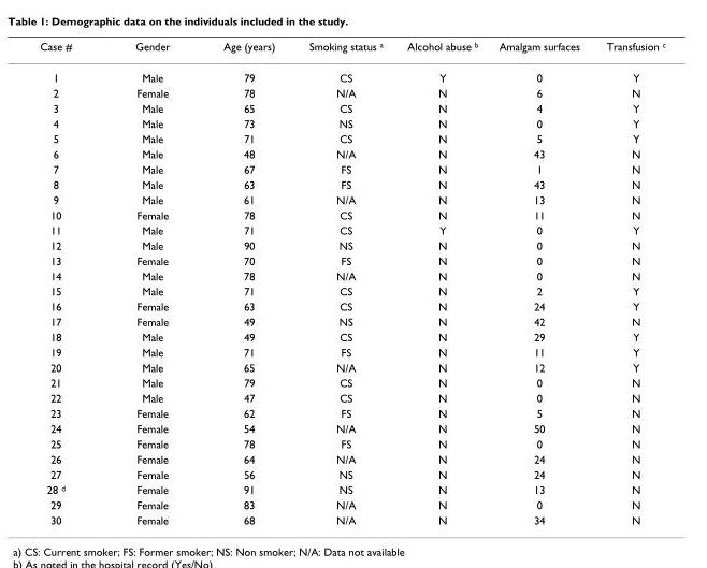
<table><thead><tr><td>Case #</td><td>Gender</td><td>Age (years)</td><td>Smoking status <sup>a</sup></td><td>Alcohol abuse <sup>b</sup></td><td>Amalgam surfaces</td><td>Transfusion <sup>c</sup></td></tr></thead><tbody><tr><td>1</td><td>Male</td><td>79</td><td>CS</td><td>Y</td><td>0</td><td>Y</td></tr><tr><td>2</td><td>Female</td><td>78</td><td>N/A</td><td>N</td><td>6</td><td>N</td></tr><tr><td>3</td><td>Male</td><td>65</td><td>CS</td><td>N</td><td>4</td><td>Y</td></tr><tr><td>4</td><td>Male</td><td>73</td><td>NS</td><td>N</td><td>0</td><td>Y</td></tr><tr><td>5</td><td>Male</td><td>71</td><td>CS</td><td>N</td><td>5</td><td>Y</td></tr><tr><td>6</td><td>Male</td><td>48</td><td>N/A</td><td>N</td><td>43</td><td>N</td></tr><tr><td>7</td><td>Male</td><td>67</td><td>FS</td><td>N</td><td>1</td><td>N</td></tr><tr><td>8</td><td>Male</td><td>63</td><td>FS</td><td>N</td><td>43</td><td>N</td></tr><tr><td>9</td><td>Male</td><td>61</td><td>N/A</td><td>N</td><td>13</td><td>N</td></tr><tr><td>10</td><td>Female</td><td>78</td><td>CS</td><td>N</td><td>11</td><td>N</td></tr><tr><td>11</td><td>Male</td><td>71</td><td>CS</td><td>Y</td><td>0</td><td>Y</td></tr><tr><td>12</td><td>Male</td><td>90</td><td>NS</td><td>N</td><td>0</td><td>N</td></tr><tr><td>13</td><td>Female</td><td>70</td><td>FS</td><td>N</td><td>0</td><td>N</td></tr><tr><td>14</td><td>Male</td><td>78</td><td>N/A</td><td>N</td><td>0</td><td>N</td></tr><tr><td>15</td><td>Male</td><td>71</td><td>CS</td><td>N</td><td>2</td><td>Y</td></tr><tr><td>16</td><td>Female</td><td>63</td><td>CS</td><td>N</td><td>24</td><td>Y</td></tr><tr><td>17</td><td>Female</td><td>49</td><td>NS</td><td>N</td><td>42</td><td>N</td></tr><tr><td>18</td><td>Male</td><td>49</td><td>CS</td><td>N</td><td>29</td><td>Y</td></tr><tr><td>19</td><td>Male</td><td>71</td><td>FS</td><td>N</td><td>11</td><td>Y</td></tr><tr><td>20</td><td>Male</td><td>65</td><td>N/A</td><td>N</td><td>12</td><td>Y</td></tr><tr><td>21</td><td>Male</td><td>79</td><td>CS</td><td>N</td><td>0</td><td>N</td></tr><tr><td>22</td><td>Male</td><td>47</td><td>CS</td><td>N</td><td>0</td><td>N</td></tr><tr><td>23</td><td>Female</td><td>62</td><td>FS</td><td>N</td><td>5</td><td>N</td></tr><tr><td>24</td><td>Female</td><td>54</td><td>N/A</td><td>N</td><td>50</td><td>N</td></tr><tr><td>25</td><td>Female</td><td>78</td><td>FS</td><td>N</td><td>0</td><td>N</td></tr><tr><td>26</td><td>Female</td><td>64</td><td>N/A</td><td>N</td><td>24</td><td>N</td></tr><tr><td>27</td><td>Female</td><td>56</td><td>NS</td><td>N</td><td>24</td><td>N</td></tr><tr><td>28 <sup>d</sup></td><td>Female</td><td>91</td><td>NS</td><td>N</td><td>13</td><td>N</td></tr><tr><td>29</td><td>Female</td><td>83</td><td>N/A</td><td>N</td><td>0</td><td>N</td></tr><tr><td>30</td><td>Female</td><td>68</td><td>N/A</td><td>N</td><td>34</td><td>N</td></tr></tbody></table>